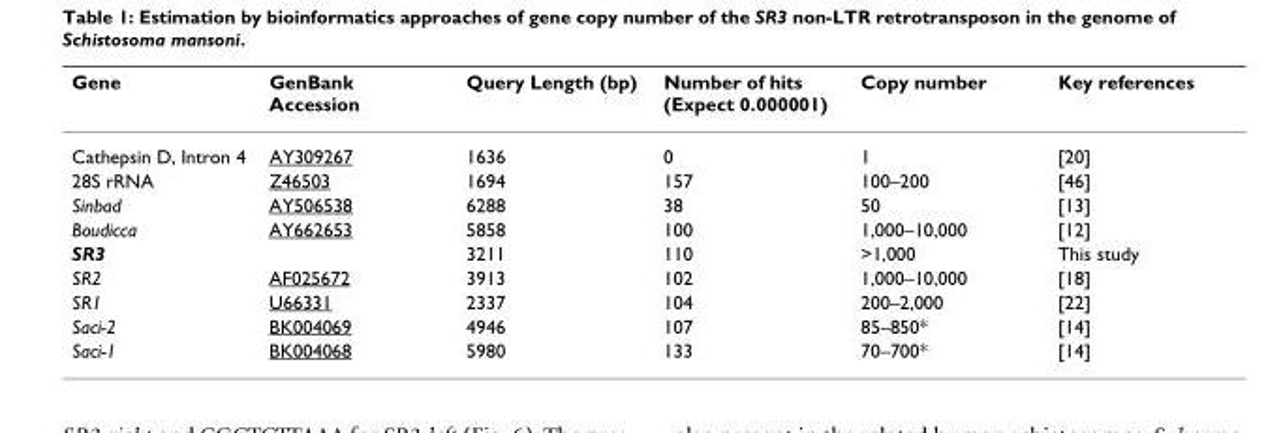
<table><thead><tr><td>Gene</td><td>GenBank Accession</td><td>Query Length (bp)</td><td>Number of hits (Expect 0.000001)</td><td>Copy number</td><td>Key references</td></tr></thead><tbody><tr><td>Cathepsin D, Intron 4</td><td>AY309267</td><td>1636</td><td>0</td><td>1</td><td>[20]</td></tr><tr><td>28S rRNA</td><td>Z46503</td><td>1694</td><td>157</td><td>100–200</td><td>[46]</td></tr><tr><td>Sinbad</td><td>AY506538</td><td>6288</td><td>38</td><td>50</td><td>[13]</td></tr><tr><td>Boudicca</td><td>AY662653</td><td>5858</td><td>100</td><td>1,000–10,000</td><td>[12]</td></tr><tr><td>SR3</td><td></td><td>3211</td><td>110</td><td>&gt;1,000</td><td>This study</td></tr><tr><td>SR2</td><td>AF025672</td><td>3913</td><td>102</td><td>1,000–10,000</td><td>[18]</td></tr><tr><td>SR1</td><td>U66331</td><td>2337</td><td>104</td><td>200–2,000</td><td>[22]</td></tr><tr><td>Saci-2</td><td>BK004069</td><td>4946</td><td>107</td><td>85–850*</td><td>[14]</td></tr><tr><td>Saci-1</td><td>BK004068</td><td>5980</td><td>133</td><td>70–700*</td><td>[14]</td></tr></tbody></table>